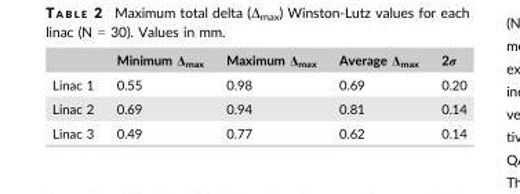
<table><thead><tr><td></td><td>Minimum Δ<sub>max</sub></td><td>Maximum Δ<sub>max</sub></td><td>Average Δ<sub>max</sub></td><td>2σ</td></tr></thead><tbody><tr><td>Linac 1</td><td>0.55</td><td>0.98</td><td>0.69</td><td>0.20</td></tr><tr><td>Linac 2</td><td>0.69</td><td>0.94</td><td>0.81</td><td>0.14</td></tr><tr><td>Linac 3</td><td>0.49</td><td>0.77</td><td>0.62</td><td>0.14</td></tr></tbody></table>